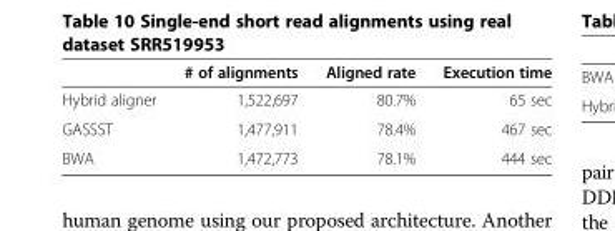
<table><thead><tr><td></td><td># of alignments</td><td>Aligned rate</td><td>Execution time</td></tr></thead><tbody><tr><td>Hybrid aligner</td><td>1,522,697</td><td>80.7%</td><td>65 sec</td></tr><tr><td>GASSST</td><td>1,477,911</td><td>78.4%</td><td>467 sec</td></tr><tr><td>BWA</td><td>1,472,773</td><td>78.1%</td><td>444 sec</td></tr></tbody></table>